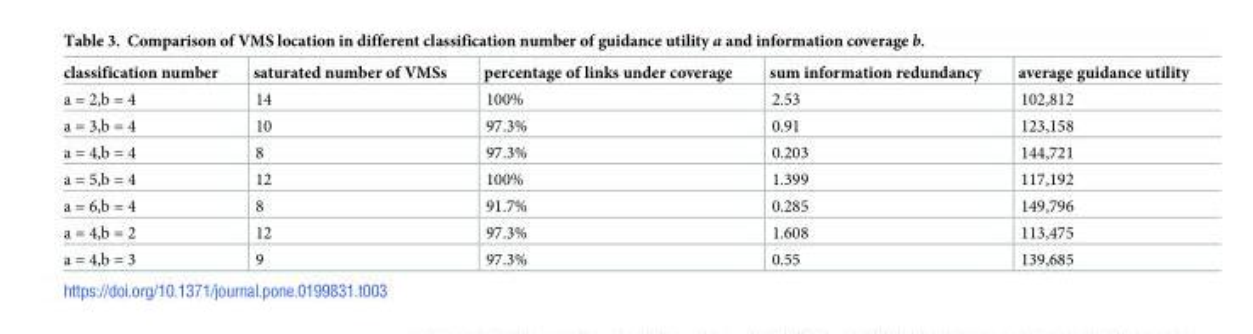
<table><thead><tr><td>classification number</td><td>saturated number of VMSs</td><td>percentage of links under coverage</td><td>sum information redundancy</td><td>average guidance utility</td></tr></thead><tbody><tr><td>a = 2,b = 4</td><td>14</td><td>100%</td><td>2.53</td><td>102,812</td></tr><tr><td>a = 3,b = 4</td><td>10</td><td>97.3%</td><td>0.91</td><td>123,158</td></tr><tr><td>a = 4,b = 4</td><td>8</td><td>97.3%</td><td>0.203</td><td>144,721</td></tr><tr><td>a = 5,b = 4</td><td>12</td><td>100%</td><td>1.399</td><td>117,192</td></tr><tr><td>a = 6,b = 4</td><td>8</td><td>91.7%</td><td>0.285</td><td>149,796</td></tr><tr><td>a = 4,b = 2</td><td>12</td><td>97.3%</td><td>1.608</td><td>113,475</td></tr><tr><td>a = 4,b = 3</td><td>9</td><td>97.3%</td><td>0.55</td><td>139,685</td></tr></tbody></table>